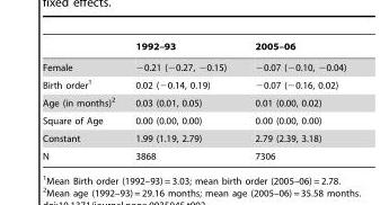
<table><thead><tr><td></td><td>1992–93</td><td>2005–06</td></tr></thead><tbody><tr><td>Female</td><td>−0.21 (−0.27, −0.15)</td><td>−0.07 (−0.10, −0.04)</td></tr><tr><td>Birth order<sup>1</sup></td><td>0.02 (−0.14, 0.19)</td><td>−0.07 (−0.16, 0.02)</td></tr><tr><td>Age (in months)<sup>2</sup></td><td>0.03 (0.01, 0.05)</td><td>0.01 (0.00, 0.02)</td></tr><tr><td>Square of Age</td><td>0.00 (0.00, 0.00)</td><td>0.00 (0.00, 0.00)</td></tr><tr><td>Constant</td><td>1.99 (1.19, 2.79)</td><td>2.79 (2.39, 3.18)</td></tr><tr><td>N</td><td>3868</td><td>7306</td></tr></tbody></table>